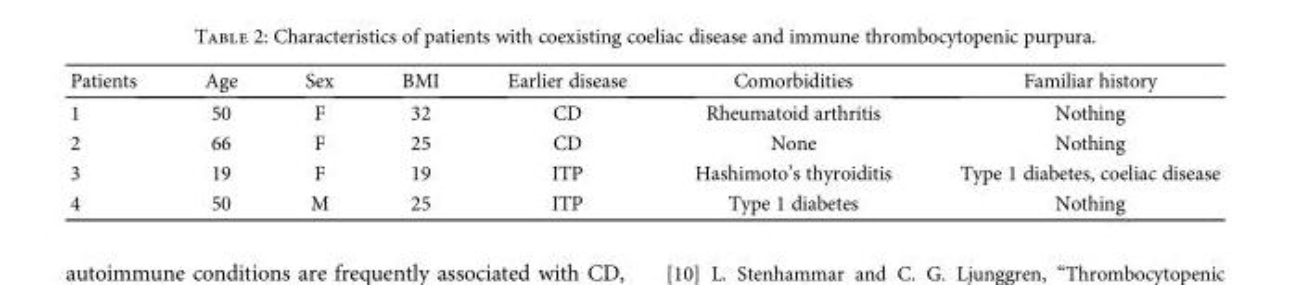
<table><thead><tr><td>Patients</td><td>Age</td><td>Sex</td><td>BMI</td><td>Earlier disease</td><td>Comorbidities</td><td>Familiar history</td></tr></thead><tbody><tr><td>1</td><td>50</td><td>F</td><td>32</td><td>CD</td><td>Rheumatoid arthritis</td><td>Nothing</td></tr><tr><td>2</td><td>66</td><td>F</td><td>25</td><td>CD</td><td>None</td><td>Nothing</td></tr><tr><td>3</td><td>19</td><td>F</td><td>19</td><td>ITP</td><td>Hashimoto’s thyroiditis</td><td>Type 1 diabetes, coeliac disease</td></tr><tr><td>4</td><td>50</td><td>M</td><td>25</td><td>ITP</td><td>Type 1 diabetes</td><td>Nothing</td></tr></tbody></table>